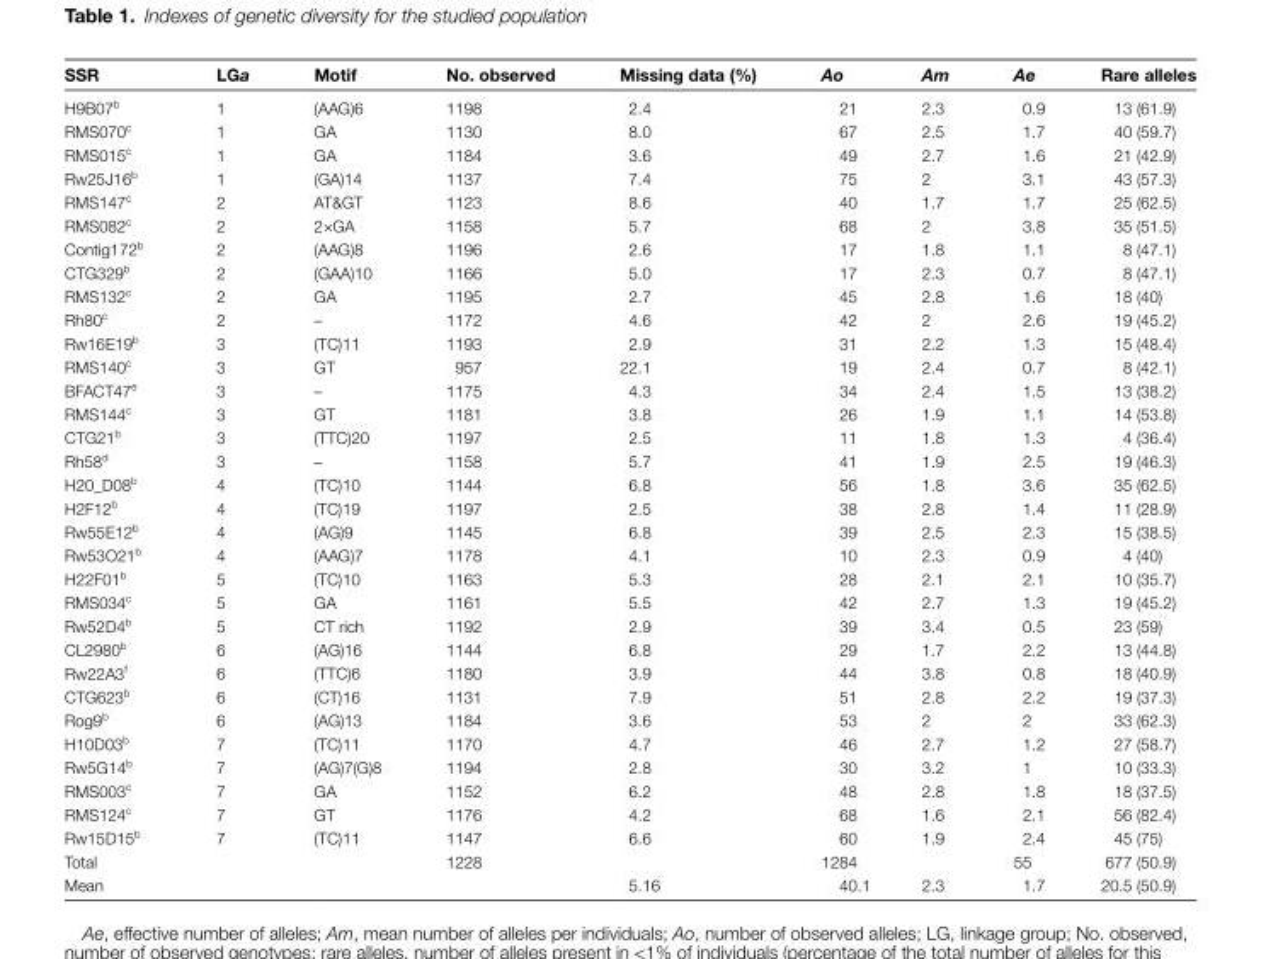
<table><thead><tr><td>SSR</td><td>LG<sup>a</sup></td><td>Motif</td><td>No. observed</td><td>Missing data (%)</td><td>Ao</td><td>Am</td><td>Ae</td><td>Rare alleles</td></tr></thead><tbody><tr><td>H9B07<sup>b</sup></td><td>1</td><td>(AAG)6</td><td>1198</td><td>2.4</td><td>21</td><td>2.3</td><td>0.9</td><td>13 (61.9)</td></tr><tr><td>RMS070<sup>c</sup></td><td>1</td><td>GA</td><td>1130</td><td>8.0</td><td>67</td><td>2.5</td><td>1.7</td><td>40 (59.7)</td></tr><tr><td>RMS015<sup>c</sup></td><td>1</td><td>GA</td><td>1184</td><td>3.6</td><td>49</td><td>2.7</td><td>1.6</td><td>21 (42.9)</td></tr><tr><td>Rw25J16<sup>b</sup></td><td>1</td><td>(GA)14</td><td>1137</td><td>7.4</td><td>75</td><td>2</td><td>3.1</td><td>43 (57.3)</td></tr><tr><td>RMS147<sup>c</sup></td><td>2</td><td>AT&amp;GT</td><td>1123</td><td>8.6</td><td>40</td><td>1.7</td><td>1.7</td><td>25 (62.5)</td></tr><tr><td>RMS082<sup>c</sup></td><td>2</td><td>2×GA</td><td>1158</td><td>5.7</td><td>68</td><td>2</td><td>3.8</td><td>35 (51.5)</td></tr><tr><td>Contig172<sup>b</sup></td><td>2</td><td>(AAG)8</td><td>1196</td><td>2.6</td><td>17</td><td>1.8</td><td>1.1</td><td>8 (47.1)</td></tr><tr><td>CTG329<sup>b</sup></td><td>2</td><td>(GAA)10</td><td>1166</td><td>5.0</td><td>17</td><td>2.3</td><td>0.7</td><td>8 (47.1)</td></tr><tr><td>RMS132<sup>c</sup></td><td>2</td><td>GA</td><td>1195</td><td>2.7</td><td>45</td><td>2.8</td><td>1.6</td><td>18 (40)</td></tr><tr><td>Rh80<sup>c</sup></td><td>2</td><td>–</td><td>1172</td><td>4.6</td><td>42</td><td>2</td><td>2.6</td><td>19 (45.2)</td></tr><tr><td>Rw16E19<sup>b</sup></td><td>3</td><td>(TC)11</td><td>1193</td><td>2.9</td><td>31</td><td>2.2</td><td>1.3</td><td>15 (48.4)</td></tr><tr><td>RMS140<sup>c</sup></td><td>3</td><td>GT</td><td>957</td><td>22.1</td><td>19</td><td>2.4</td><td>0.7</td><td>8 (42.1)</td></tr><tr><td>BFACT47<sup>e</sup></td><td>3</td><td>–</td><td>1175</td><td>4.3</td><td>34</td><td>2.4</td><td>1.5</td><td>13 (38.2)</td></tr><tr><td>RMS144<sup>c</sup></td><td>3</td><td>GT</td><td>1181</td><td>3.8</td><td>26</td><td>1.9</td><td>1.1</td><td>14 (53.8)</td></tr><tr><td>CTG21<sup>b</sup></td><td>3</td><td>(TTC)20</td><td>1197</td><td>2.5</td><td>11</td><td>1.8</td><td>1.3</td><td>4 (36.4)</td></tr><tr><td>Rh58<sup>d</sup></td><td>3</td><td>–</td><td>1158</td><td>5.7</td><td>41</td><td>1.9</td><td>2.5</td><td>19 (46.3)</td></tr><tr><td>H20_D08<sup>b</sup></td><td>4</td><td>(TC)10</td><td>1144</td><td>6.8</td><td>56</td><td>1.8</td><td>3.6</td><td>35 (62.5)</td></tr><tr><td>H2F12<sup>b</sup></td><td>4</td><td>(TC)19</td><td>1197</td><td>2.5</td><td>38</td><td>2.8</td><td>1.4</td><td>11 (28.9)</td></tr><tr><td>Rw55E12<sup>b</sup></td><td>4</td><td>(AG)9</td><td>1145</td><td>6.8</td><td>39</td><td>2.5</td><td>2.3</td><td>15 (38.5)</td></tr><tr><td>Rw53O21<sup>b</sup></td><td>4</td><td>(AAG)7</td><td>1178</td><td>4.1</td><td>10</td><td>2.3</td><td>0.9</td><td>4 (40)</td></tr><tr><td>H22F01<sup>b</sup></td><td>5</td><td>(TC)10</td><td>1163</td><td>5.3</td><td>28</td><td>2.1</td><td>2.1</td><td>10 (35.7)</td></tr><tr><td>RMS034<sup>c</sup></td><td>5</td><td>GA</td><td>1161</td><td>5.5</td><td>42</td><td>2.7</td><td>1.3</td><td>19 (45.2)</td></tr><tr><td>Rw52D4<sup>b</sup></td><td>5</td><td>CT rich</td><td>1192</td><td>2.9</td><td>39</td><td>3.4</td><td>0.5</td><td>23 (59)</td></tr><tr><td>CL2980<sup>b</sup></td><td>6</td><td>(AG)16</td><td>1144</td><td>6.8</td><td>29</td><td>1.7</td><td>2.2</td><td>13 (44.8)</td></tr><tr><td>Rw22A3<sup>f</sup></td><td>6</td><td>(TTC)6</td><td>1180</td><td>3.9</td><td>44</td><td>3.8</td><td>0.8</td><td>18 (40.9)</td></tr><tr><td>CTG623<sup>b</sup></td><td>6</td><td>(CT)16</td><td>1131</td><td>7.9</td><td>51</td><td>2.8</td><td>2.2</td><td>19 (37.3)</td></tr><tr><td>Rog9<sup>b</sup></td><td>6</td><td>(AG)13</td><td>1184</td><td>3.6</td><td>53</td><td>2</td><td>2</td><td>33 (62.3)</td></tr><tr><td>H10D03<sup>b</sup></td><td>7</td><td>(TC)11</td><td>1170</td><td>4.7</td><td>46</td><td>2.7</td><td>1.2</td><td>27 (58.7)</td></tr><tr><td>Rw5G14<sup>b</sup></td><td>7</td><td>(AG)7(G)8</td><td>1194</td><td>2.8</td><td>30</td><td>3.2</td><td>1</td><td>10 (33.3)</td></tr><tr><td>RMS003<sup>c</sup></td><td>7</td><td>GA</td><td>1152</td><td>6.2</td><td>48</td><td>2.8</td><td>1.8</td><td>18 (37.5)</td></tr><tr><td>RMS124<sup>c</sup></td><td>7</td><td>GT</td><td>1176</td><td>4.2</td><td>68</td><td>1.6</td><td>2.1</td><td>56 (82.4)</td></tr><tr><td>Rw15D15<sup>b</sup></td><td>7</td><td>(TC)11</td><td>1147</td><td>6.6</td><td>60</td><td>1.9</td><td>2.4</td><td>45 (75)</td></tr><tr><td>Total</td><td></td><td></td><td>1228</td><td></td><td>1284</td><td></td><td>55</td><td>677 (50.9)</td></tr><tr><td>Mean</td><td></td><td></td><td></td><td>5.16</td><td>40.1</td><td>2.3</td><td>1.7</td><td>20.5 (50.9)</td></tr></tbody></table>